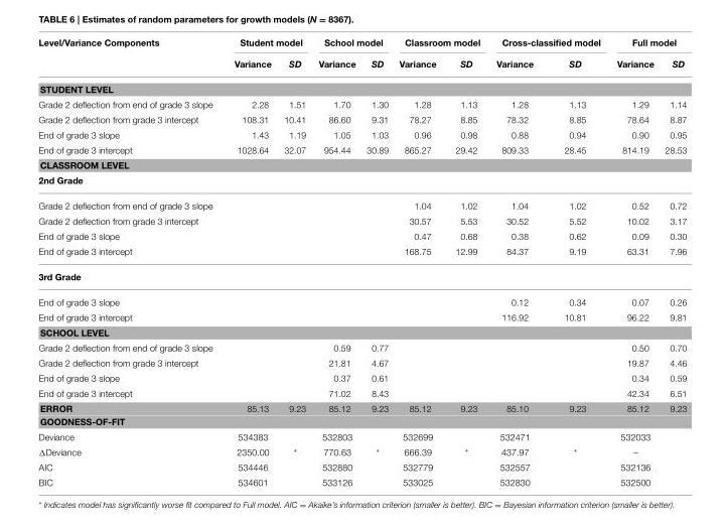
<table><thead><tr><td rowspan="2">Level/Variance Components</td><td colspan="2">Student model</td><td colspan="2">School model</td><td colspan="2">Classroom model</td><td colspan="2">Cross-classified model</td><td colspan="2">Full model</td></tr><tr><td>Variance</td><td>SD</td><td>Variance</td><td>SD</td><td>Variance</td><td>SD</td><td>Variance</td><td>SD</td><td>Variance</td><td>SD</td></tr></thead><tbody><tr><td colspan="11">STUDENT LEVEL</td></tr><tr><td>Grade 2 deflection from end of grade 3 slope</td><td>2.28</td><td>1.51</td><td>1.70</td><td>1.30</td><td>1.28</td><td>1.13</td><td>1.28</td><td>1.13</td><td>1.29</td><td>1.14</td></tr><tr><td>Grade 2 deflection from grade 3 intercept</td><td>108.31</td><td>10.41</td><td>86.60</td><td>9.31</td><td>78.27</td><td>8.85</td><td>78.32</td><td>8.85</td><td>78.64</td><td>8.87</td></tr><tr><td>End of grade 3 slope</td><td>1.43</td><td>1.19</td><td>1.05</td><td>1.03</td><td>0.96</td><td>0.98</td><td>0.88</td><td>0.94</td><td>0.90</td><td>0.95</td></tr><tr><td>End of grade 3 intercept</td><td>1028.64</td><td>32.07</td><td>954.44</td><td>30.89</td><td>865.27</td><td>29.42</td><td>809.33</td><td>28.45</td><td>814.19</td><td>28.53</td></tr><tr><td colspan="11">CLASSROOM LEVEL</td></tr><tr><td colspan="11">2nd Grade</td></tr><tr><td>Grade 2 deflection from end of grade 3 slope</td><td></td><td></td><td></td><td></td><td>1.04</td><td>1.02</td><td>1.04</td><td>1.02</td><td>0.52</td><td>0.72</td></tr><tr><td>Grade 2 deflection from grade 3 intercept</td><td></td><td></td><td></td><td></td><td>30.57</td><td>5.53</td><td>30.52</td><td>5.52</td><td>10.02</td><td>3.17</td></tr><tr><td>End of grade 3 slope</td><td></td><td></td><td></td><td></td><td>0.47</td><td>0.68</td><td>0.38</td><td>0.62</td><td>0.09</td><td>0.30</td></tr><tr><td>End of grade 3 intercept</td><td></td><td></td><td></td><td></td><td>168.75</td><td>12.99</td><td>84.37</td><td>9.19</td><td>63.31</td><td>7.96</td></tr><tr><td colspan="11">3rd Grade</td></tr><tr><td>End of grade 3 slope</td><td></td><td></td><td></td><td></td><td></td><td></td><td>0.12</td><td>0.34</td><td>0.07</td><td>0.26</td></tr><tr><td>End of grade 3 intercept</td><td></td><td></td><td></td><td></td><td></td><td></td><td>116.92</td><td>10.81</td><td>96.22</td><td>9.81</td></tr><tr><td colspan="11">SCHOOL LEVEL</td></tr><tr><td>Grade 2 deflection from end of grade 3 slope</td><td></td><td></td><td>0.59</td><td>0.77</td><td></td><td></td><td></td><td></td><td>0.50</td><td>0.70</td></tr><tr><td>Grade 2 deflection from grade 3 intercept</td><td></td><td></td><td>21.81</td><td>4.67</td><td></td><td></td><td></td><td></td><td>19.87</td><td>4.46</td></tr><tr><td>End of grade 3 slope</td><td></td><td></td><td>0.37</td><td>0.61</td><td></td><td></td><td></td><td></td><td>0.34</td><td>0.59</td></tr><tr><td>End of grade 3 intercept</td><td></td><td></td><td>71.02</td><td>8.43</td><td></td><td></td><td></td><td></td><td>42.34</td><td>6.51</td></tr><tr><td>ERROR</td><td>85.13</td><td>9.23</td><td>85.12</td><td>9.23</td><td>85.12</td><td>9.23</td><td>85.10</td><td>9.23</td><td>85.12</td><td>9.23</td></tr><tr><td colspan="11">GOODNESS-OF-FIT</td></tr><tr><td>Deviance</td><td>534383</td><td></td><td>532803</td><td></td><td>532699</td><td></td><td>532471</td><td></td><td>532033</td><td></td></tr><tr><td>ΔDeviance</td><td>2350.00</td><td>*</td><td>770.63</td><td>*</td><td>666.39</td><td>*</td><td>437.97</td><td>*</td><td>–</td><td></td></tr><tr><td>AIC</td><td>534446</td><td></td><td>532880</td><td></td><td>532779</td><td></td><td>532557</td><td></td><td>532136</td><td></td></tr><tr><td>BIC</td><td>534601</td><td></td><td>533126</td><td></td><td>533025</td><td></td><td>532830</td><td></td><td>532500</td><td></td></tr></tbody></table>